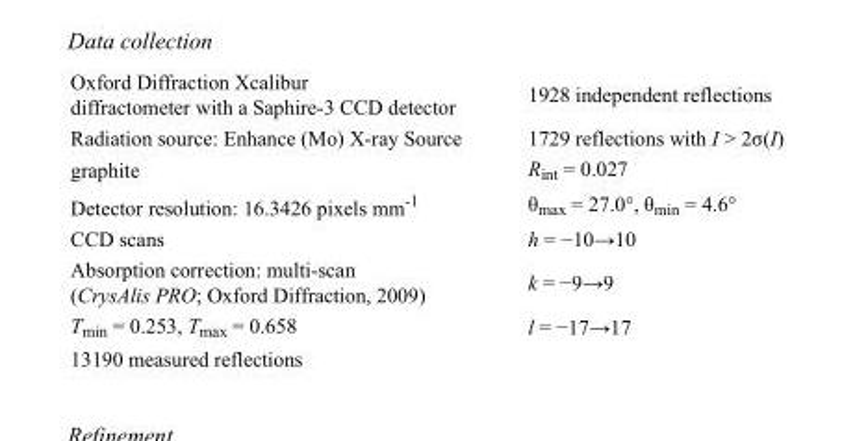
<table><tbody><tr><td>Oxford Diffraction Xcalibur diffractometer with a Saphire-3 CCD detector</td><td>1928 independent reflections</td></tr><tr><td>Radiation source: Enhance (Mo) X-ray Source</td><td>1729 reflections with I &gt; 2σ(I)</td></tr><tr><td>graphite</td><td>R<sub>int</sub> = 0.027</td></tr><tr><td>Detector resolution: 16.3426 pixels mm<sup>-1</sup></td><td>θ<sub>max</sub> = 27.0°, θ<sub>min</sub> = 4.6°</td></tr><tr><td>CCD scans</td><td>h = −10→10</td></tr><tr><td>Absorption correction: multi-scan (CrysAlis PRO; Oxford Diffraction, 2009)</td><td>k = −9→9</td></tr><tr><td>T<sub>min</sub> = 0.253, T<sub>max</sub> = 0.658</td><td>l = −17→17</td></tr><tr><td>13190 measured reflections</td><td></td></tr></tbody></table>